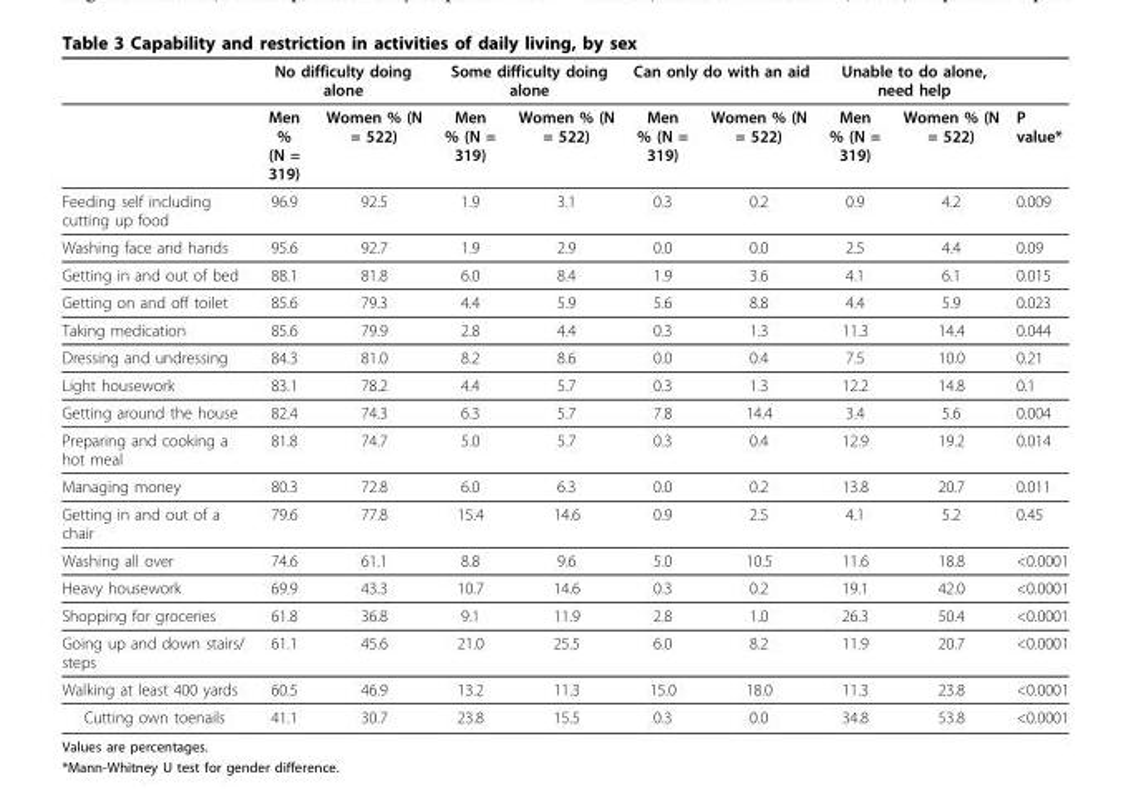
<table><thead><tr><td rowspan="2"></td><td colspan="2">No difficulty doing alone</td><td colspan="2">Some difficulty doing alone</td><td colspan="2">Can only do with an aid</td><td colspan="2">Unable to do alone, need help</td><td rowspan="2">P value*</td></tr><tr><td>Men % (N = 319)</td><td>Women % (N = 522)</td><td>Men % (N = 319)</td><td>Women % (N = 522)</td><td>Men % (N = 319)</td><td>Women % (N = 522)</td><td>Men % (N = 319)</td><td>Women % (N = 522)</td></tr></thead><tbody><tr><td>Feeding self including cutting up food</td><td>96.9</td><td>92.5</td><td>1.9</td><td>3.1</td><td>0.3</td><td>0.2</td><td>0.9</td><td>4.2</td><td>0.009</td></tr><tr><td>Washing face and hands</td><td>95.6</td><td>92.7</td><td>1.9</td><td>2.9</td><td>0.0</td><td>0.0</td><td>2.5</td><td>4.4</td><td>0.09</td></tr><tr><td>Getting in and out of bed</td><td>88.1</td><td>81.8</td><td>6.0</td><td>8.4</td><td>1.9</td><td>3.6</td><td>4.1</td><td>6.1</td><td>0.015</td></tr><tr><td>Getting on and off toilet</td><td>85.6</td><td>79.3</td><td>4.4</td><td>5.9</td><td>5.6</td><td>8.8</td><td>4.4</td><td>5.9</td><td>0.023</td></tr><tr><td>Taking medication</td><td>85.6</td><td>79.9</td><td>2.8</td><td>4.4</td><td>0.3</td><td>1.3</td><td>11.3</td><td>14.4</td><td>0.044</td></tr><tr><td>Dressing and undressing</td><td>84.3</td><td>81.0</td><td>8.2</td><td>8.6</td><td>0.0</td><td>0.4</td><td>7.5</td><td>10.0</td><td>0.21</td></tr><tr><td>Light housework</td><td>83.1</td><td>78.2</td><td>4.4</td><td>5.7</td><td>0.3</td><td>1.3</td><td>12.2</td><td>14.8</td><td>0.1</td></tr><tr><td>Getting around the house</td><td>82.4</td><td>74.3</td><td>6.3</td><td>5.7</td><td>7.8</td><td>14.4</td><td>3.4</td><td>5.6</td><td>0.004</td></tr><tr><td>Preparing and cooking a hot meal</td><td>81.8</td><td>74.7</td><td>5.0</td><td>5.7</td><td>0.3</td><td>0.4</td><td>12.9</td><td>19.2</td><td>0.014</td></tr><tr><td>Managing money</td><td>80.3</td><td>72.8</td><td>6.0</td><td>6.3</td><td>0.0</td><td>0.2</td><td>13.8</td><td>20.7</td><td>0.011</td></tr><tr><td>Getting in and out of a chair</td><td>79.6</td><td>77.8</td><td>15.4</td><td>14.6</td><td>0.9</td><td>2.5</td><td>4.1</td><td>5.2</td><td>0.45</td></tr><tr><td>Washing all over</td><td>74.6</td><td>61.1</td><td>8.8</td><td>9.6</td><td>5.0</td><td>10.5</td><td>11.6</td><td>18.8</td><td>&lt;0.0001</td></tr><tr><td>Heavy housework</td><td>69.9</td><td>43.3</td><td>10.7</td><td>14.6</td><td>0.3</td><td>0.2</td><td>19.1</td><td>42.0</td><td>&lt;0.0001</td></tr><tr><td>Shopping for groceries</td><td>61.8</td><td>36.8</td><td>9.1</td><td>11.9</td><td>2.8</td><td>1.0</td><td>26.3</td><td>50.4</td><td>&lt;0.0001</td></tr><tr><td>Going up and down stairs/ steps</td><td>61.1</td><td>45.6</td><td>21.0</td><td>25.5</td><td>6.0</td><td>8.2</td><td>11.9</td><td>20.7</td><td>&lt;0.0001</td></tr><tr><td>Walking at least 400 yards</td><td>60.5</td><td>46.9</td><td>13.2</td><td>11.3</td><td>15.0</td><td>18.0</td><td>11.3</td><td>23.8</td><td>&lt;0.0001</td></tr><tr><td>Cutting own toenails</td><td>41.1</td><td>30.7</td><td>23.8</td><td>15.5</td><td>0.3</td><td>0.0</td><td>34.8</td><td>53.8</td><td>&lt;0.0001</td></tr></tbody></table>